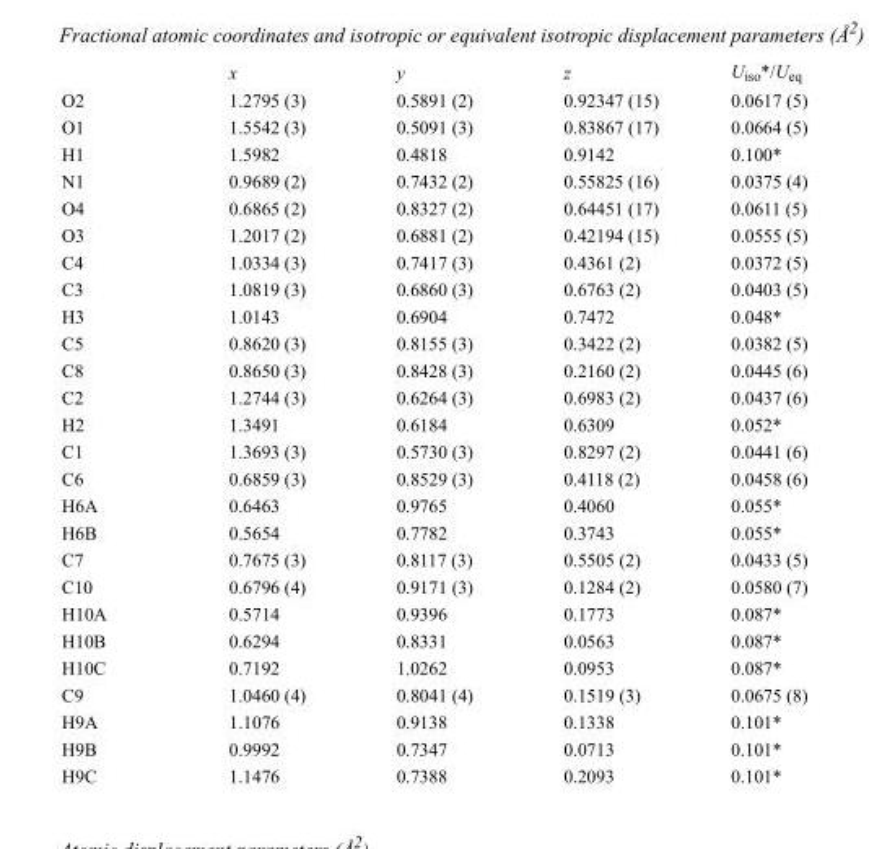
<table><thead><tr><td></td><td>x</td><td>y</td><td>z</td><td>U<sub>iso</sub>*/U<sub>eq</sub></td></tr></thead><tbody><tr><td>O2</td><td>1.2795 (3)</td><td>0.5891 (2)</td><td>0.92347 (15)</td><td>0.0617 (5)</td></tr><tr><td>O1</td><td>1.5542 (3)</td><td>0.5091 (3)</td><td>0.83867 (17)</td><td>0.0664 (5)</td></tr><tr><td>H1</td><td>1.5982</td><td>0.4818</td><td>0.9142</td><td>0.100*</td></tr><tr><td>N1</td><td>0.9689 (2)</td><td>0.7432 (2)</td><td>0.55825 (16)</td><td>0.0375 (4)</td></tr><tr><td>O4</td><td>0.6865 (2)</td><td>0.8327 (2)</td><td>0.64451 (17)</td><td>0.0611 (5)</td></tr><tr><td>O3</td><td>1.2017 (2)</td><td>0.6881 (2)</td><td>0.42194 (15)</td><td>0.0555 (5)</td></tr><tr><td>C4</td><td>1.0334 (3)</td><td>0.7417 (3)</td><td>0.4361 (2)</td><td>0.0372 (5)</td></tr><tr><td>C3</td><td>1.0819 (3)</td><td>0.6860 (3)</td><td>0.6763 (2)</td><td>0.0403 (5)</td></tr><tr><td>H3</td><td>1.0143</td><td>0.6904</td><td>0.7472</td><td>0.048*</td></tr><tr><td>C5</td><td>0.8620 (3)</td><td>0.8155 (3)</td><td>0.3422 (2)</td><td>0.0382 (5)</td></tr><tr><td>C8</td><td>0.8650 (3)</td><td>0.8428 (3)</td><td>0.2160 (2)</td><td>0.0445 (6)</td></tr><tr><td>C2</td><td>1.2744 (3)</td><td>0.6264 (3)</td><td>0.6983 (2)</td><td>0.0437 (6)</td></tr><tr><td>H2</td><td>1.3491</td><td>0.6184</td><td>0.6309</td><td>0.052*</td></tr><tr><td>C1</td><td>1.3693 (3)</td><td>0.5730 (3)</td><td>0.8297 (2)</td><td>0.0441 (6)</td></tr><tr><td>C6</td><td>0.6859 (3)</td><td>0.8529 (3)</td><td>0.4118 (2)</td><td>0.0458 (6)</td></tr><tr><td>H6A</td><td>0.6463</td><td>0.9765</td><td>0.4060</td><td>0.055*</td></tr><tr><td>H6B</td><td>0.5654</td><td>0.7782</td><td>0.3743</td><td>0.055*</td></tr><tr><td>C7</td><td>0.7675 (3)</td><td>0.8117 (3)</td><td>0.5505 (2)</td><td>0.0433 (5)</td></tr><tr><td>C10</td><td>0.6796 (4)</td><td>0.9171 (3)</td><td>0.1284 (2)</td><td>0.0580 (7)</td></tr><tr><td>H10A</td><td>0.5714</td><td>0.9396</td><td>0.1773</td><td>0.087*</td></tr><tr><td>H10B</td><td>0.6294</td><td>0.8331</td><td>0.0563</td><td>0.087*</td></tr><tr><td>H10C</td><td>0.7192</td><td>1.0262</td><td>0.0953</td><td>0.087*</td></tr><tr><td>C9</td><td>1.0460 (4)</td><td>0.8041 (4)</td><td>0.1519 (3)</td><td>0.0675 (8)</td></tr><tr><td>H9A</td><td>1.1076</td><td>0.9138</td><td>0.1338</td><td>0.101*</td></tr><tr><td>H9B</td><td>0.9992</td><td>0.7347</td><td>0.0713</td><td>0.101*</td></tr><tr><td>H9C</td><td>1.1476</td><td>0.7388</td><td>0.2093</td><td>0.101*</td></tr></tbody></table>